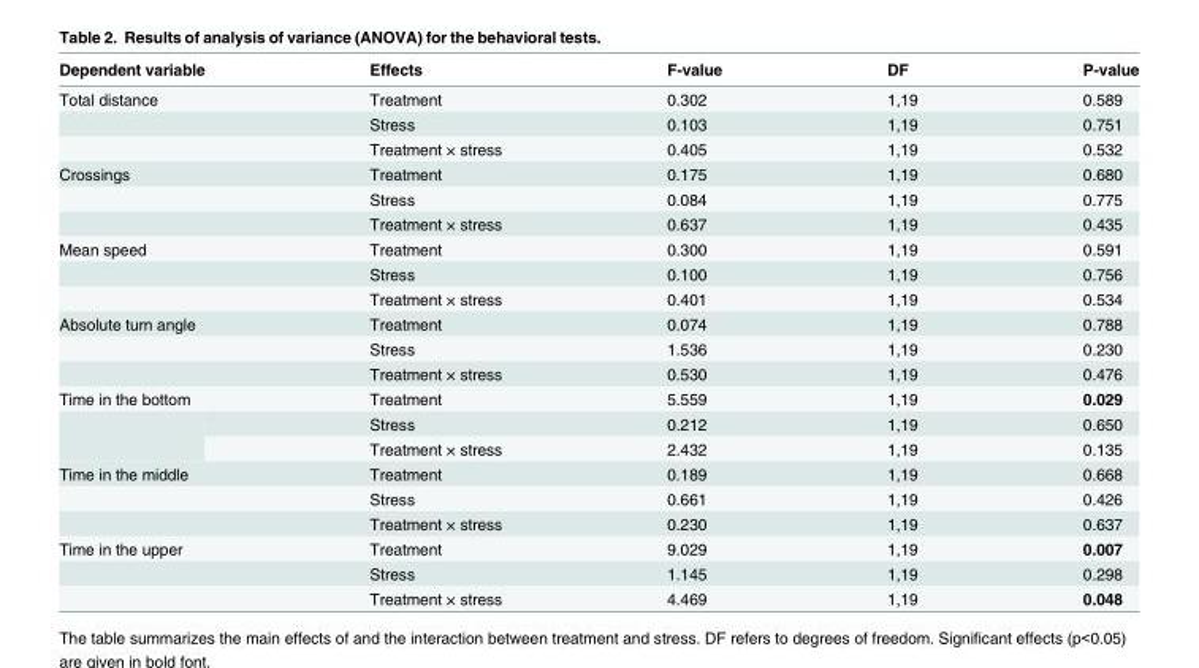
<table><thead><tr><td>Dependent variable</td><td>Effects</td><td>F-value</td><td>DF</td><td>P-value</td></tr></thead><tbody><tr><td rowspan="3">Total distance</td><td>Treatment</td><td>0.302</td><td>1,19</td><td>0.589</td></tr><tr><td>Stress</td><td>0.103</td><td>1,19</td><td>0.751</td></tr><tr><td>Treatment × stress</td><td>0.405</td><td>1,19</td><td>0.532</td></tr><tr><td rowspan="3">Crossings</td><td>Treatment</td><td>0.175</td><td>1,19</td><td>0.680</td></tr><tr><td>Stress</td><td>0.084</td><td>1,19</td><td>0.775</td></tr><tr><td>Treatment × stress</td><td>0.637</td><td>1,19</td><td>0.435</td></tr><tr><td rowspan="3">Mean speed</td><td>Treatment</td><td>0.300</td><td>1,19</td><td>0.591</td></tr><tr><td>Stress</td><td>0.100</td><td>1,19</td><td>0.756</td></tr><tr><td>Treatment × stress</td><td>0.401</td><td>1,19</td><td>0.534</td></tr><tr><td rowspan="3">Absolute turn angle</td><td>Treatment</td><td>0.074</td><td>1,19</td><td>0.788</td></tr><tr><td>Stress</td><td>1.536</td><td>1,19</td><td>0.230</td></tr><tr><td>Treatment × stress</td><td>0.530</td><td>1,19</td><td>0.476</td></tr><tr><td rowspan="3">Time in the bottom</td><td>Treatment</td><td>5.559</td><td>1,19</td><td>0.029</td></tr><tr><td>Stress</td><td>0.212</td><td>1,19</td><td>0.650</td></tr><tr><td>Treatment × stress</td><td>2.432</td><td>1,19</td><td>0.135</td></tr><tr><td rowspan="3">Time in the middle</td><td>Treatment</td><td>0.189</td><td>1,19</td><td>0.668</td></tr><tr><td>Stress</td><td>0.661</td><td>1,19</td><td>0.426</td></tr><tr><td>Treatment × stress</td><td>0.230</td><td>1,19</td><td>0.637</td></tr><tr><td rowspan="3">Time in the upper</td><td>Treatment</td><td>9.029</td><td>1,19</td><td>0.007</td></tr><tr><td>Stress</td><td>1.145</td><td>1,19</td><td>0.298</td></tr><tr><td>Treatment × stress</td><td>4.469</td><td>1,19</td><td>0.048</td></tr></tbody></table>